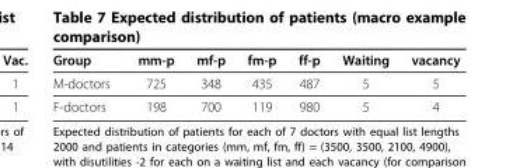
<table><thead><tr><td>Group</td><td>mm-p</td><td>mf-p</td><td>fm-p</td><td>ff-p</td><td>Waiting</td><td>vacancy</td></tr></thead><tbody><tr><td>M-doctors</td><td>725</td><td>348</td><td>435</td><td>487</td><td>5</td><td>5</td></tr><tr><td>F-doctors</td><td>198</td><td>700</td><td>119</td><td>980</td><td>5</td><td>4</td></tr></tbody></table>